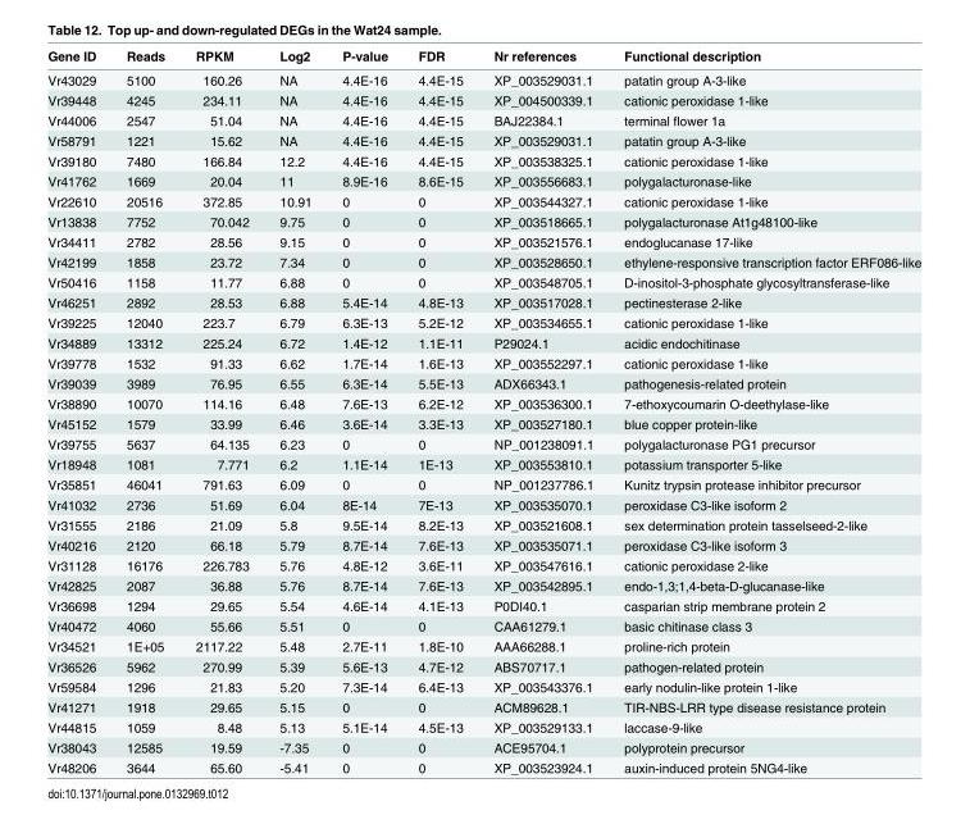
<table><thead><tr><td>Gene ID</td><td>Reads</td><td>RPKM</td><td>Log2</td><td>P-value</td><td>FDR</td><td>Nr references</td><td>Functional description</td></tr></thead><tbody><tr><td>Vr43029</td><td>5100</td><td>160.26</td><td>NA</td><td>4.4E-16</td><td>4.4E-15</td><td>XP_003529031.1</td><td>patatin group A-3-like</td></tr><tr><td>Vr39448</td><td>4245</td><td>234.11</td><td>NA</td><td>4.4E-16</td><td>4.4E-15</td><td>XP_004500339.1</td><td>cationic peroxidase 1-like</td></tr><tr><td>Vr44006</td><td>2547</td><td>51.04</td><td>NA</td><td>4.4E-16</td><td>4.4E-15</td><td>BAJ22384.1</td><td>terminal flower 1a</td></tr><tr><td>Vr58791</td><td>1221</td><td>15.62</td><td>NA</td><td>4.4E-16</td><td>4.4E-15</td><td>XP_003529031.1</td><td>patatin group A-3-like</td></tr><tr><td>Vr39180</td><td>7480</td><td>166.84</td><td>12.2</td><td>4.4E-16</td><td>4.4E-15</td><td>XP_003538325.1</td><td>cationic peroxidase 1-like</td></tr><tr><td>Vr41762</td><td>1669</td><td>20.04</td><td>11</td><td>8.9E-16</td><td>8.6E-15</td><td>XP_003556683.1</td><td>polygalacturonase-like</td></tr><tr><td>Vr22610</td><td>20516</td><td>372.85</td><td>10.91</td><td>0</td><td>0</td><td>XP_003544327.1</td><td>cationic peroxidase 1-like</td></tr><tr><td>Vr13838</td><td>7752</td><td>70.042</td><td>9.75</td><td>0</td><td>0</td><td>XP_003518665.1</td><td>polygalacturonase At1g48100-like</td></tr><tr><td>Vr34411</td><td>2782</td><td>28.56</td><td>9.15</td><td>0</td><td>0</td><td>XP_003521576.1</td><td>endoglucanase 17-like</td></tr><tr><td>Vr42199</td><td>1858</td><td>23.72</td><td>7.34</td><td>0</td><td>0</td><td>XP_003528650.1</td><td>ethylene-responsive transcription factor ERF086-like</td></tr><tr><td>Vr50416</td><td>1158</td><td>11.77</td><td>6.88</td><td>0</td><td>0</td><td>XP_003548705.1</td><td>D-inositol-3-phosphate glycosyltransferase-like</td></tr><tr><td>Vr46251</td><td>2892</td><td>28.53</td><td>6.88</td><td>5.4E-14</td><td>4.8E-13</td><td>XP_003517028.1</td><td>pectinesterase 2-like</td></tr><tr><td>Vr39225</td><td>12040</td><td>223.7</td><td>6.79</td><td>6.3E-13</td><td>5.2E-12</td><td>XP_003534655.1</td><td>cationic peroxidase 1-like</td></tr><tr><td>Vr34889</td><td>13312</td><td>225.24</td><td>6.72</td><td>1.4E-12</td><td>1.1E-11</td><td>P29024.1</td><td>acidic endochitinase</td></tr><tr><td>Vr39778</td><td>1532</td><td>91.33</td><td>6.62</td><td>1.7E-14</td><td>1.6E-13</td><td>XP_003552297.1</td><td>cationic peroxidase 1-like</td></tr><tr><td>Vr39039</td><td>3989</td><td>76.95</td><td>6.55</td><td>6.3E-14</td><td>5.5E-13</td><td>ADX66343.1</td><td>pathogenesis-related protein</td></tr><tr><td>Vr38890</td><td>10070</td><td>114.16</td><td>6.48</td><td>7.6E-13</td><td>6.2E-12</td><td>XP_003536300.1</td><td>7-ethoxycoumarin O-deethylase-like</td></tr><tr><td>Vr45152</td><td>1579</td><td>33.99</td><td>6.46</td><td>3.6E-14</td><td>3.3E-13</td><td>XP_003527180.1</td><td>blue copper protein-like</td></tr><tr><td>Vr39755</td><td>5637</td><td>64.135</td><td>6.23</td><td>0</td><td>0</td><td>NP_001238091.1</td><td>polygalacturonase PG1 precursor</td></tr><tr><td>Vr18948</td><td>1081</td><td>7.771</td><td>6.2</td><td>1.1E-14</td><td>1E-13</td><td>XP_003553810.1</td><td>potassium transporter 5-like</td></tr><tr><td>Vr35851</td><td>46041</td><td>791.63</td><td>6.09</td><td>0</td><td>0</td><td>NP_001237786.1</td><td>Kunitz trypsin protease inhibitor precursor</td></tr><tr><td>Vr41032</td><td>2736</td><td>51.69</td><td>6.04</td><td>8E-14</td><td>7E-13</td><td>XP_003535070.1</td><td>peroxidase C3-like isoform 2</td></tr><tr><td>Vr31555</td><td>2186</td><td>21.09</td><td>5.8</td><td>9.5E-14</td><td>8.2E-13</td><td>XP_003521608.1</td><td>sex determination protein tasselseed-2-like</td></tr><tr><td>Vr40216</td><td>2120</td><td>66.18</td><td>5.79</td><td>8.7E-14</td><td>7.6E-13</td><td>XP_003535071.1</td><td>peroxidase C3-like isoform 3</td></tr><tr><td>Vr31128</td><td>16176</td><td>226.783</td><td>5.76</td><td>4.8E-12</td><td>3.6E-11</td><td>XP_003547616.1</td><td>cationic peroxidase 2-like</td></tr><tr><td>Vr42825</td><td>2087</td><td>36.88</td><td>5.76</td><td>8.7E-14</td><td>7.6E-13</td><td>XP_003542895.1</td><td>endo-1,3;1,4-beta-D-glucanase-like</td></tr><tr><td>Vr36698</td><td>1294</td><td>29.65</td><td>5.54</td><td>4.6E-14</td><td>4.1E-13</td><td>P0DI40.1</td><td>casparian strip membrane protein 2</td></tr><tr><td>Vr40472</td><td>4060</td><td>55.66</td><td>5.51</td><td>0</td><td>0</td><td>CAA61279.1</td><td>basic chitinase class 3</td></tr><tr><td>Vr34521</td><td>1E+05</td><td>2117.22</td><td>5.48</td><td>2.7E-11</td><td>1.8E-10</td><td>AAA66288.1</td><td>proline-rich protein</td></tr><tr><td>Vr36526</td><td>5962</td><td>270.99</td><td>5.39</td><td>5.6E-13</td><td>4.7E-12</td><td>ABS70717.1</td><td>pathogen-related protein</td></tr><tr><td>Vr59584</td><td>1296</td><td>21.83</td><td>5.20</td><td>7.3E-14</td><td>6.4E-13</td><td>XP_003543376.1</td><td>early nodulin-like protein 1-like</td></tr><tr><td>Vr41271</td><td>1918</td><td>29.65</td><td>5.15</td><td>0</td><td>0</td><td>ACM89628.1</td><td>TIR-NBS-LRR type disease resistance protein</td></tr><tr><td>Vr44815</td><td>1059</td><td>8.48</td><td>5.13</td><td>5.1E-14</td><td>4.5E-13</td><td>XP_003529133.1</td><td>laccase-9-like</td></tr><tr><td>Vr38043</td><td>12585</td><td>19.59</td><td>-7.35</td><td>0</td><td>0</td><td>ACE95704.1</td><td>polyprotein precursor</td></tr><tr><td>Vr48206</td><td>3644</td><td>65.60</td><td>-5.41</td><td>0</td><td>0</td><td>XP_003523924.1</td><td>auxin-induced protein 5NG4-like</td></tr></tbody></table>